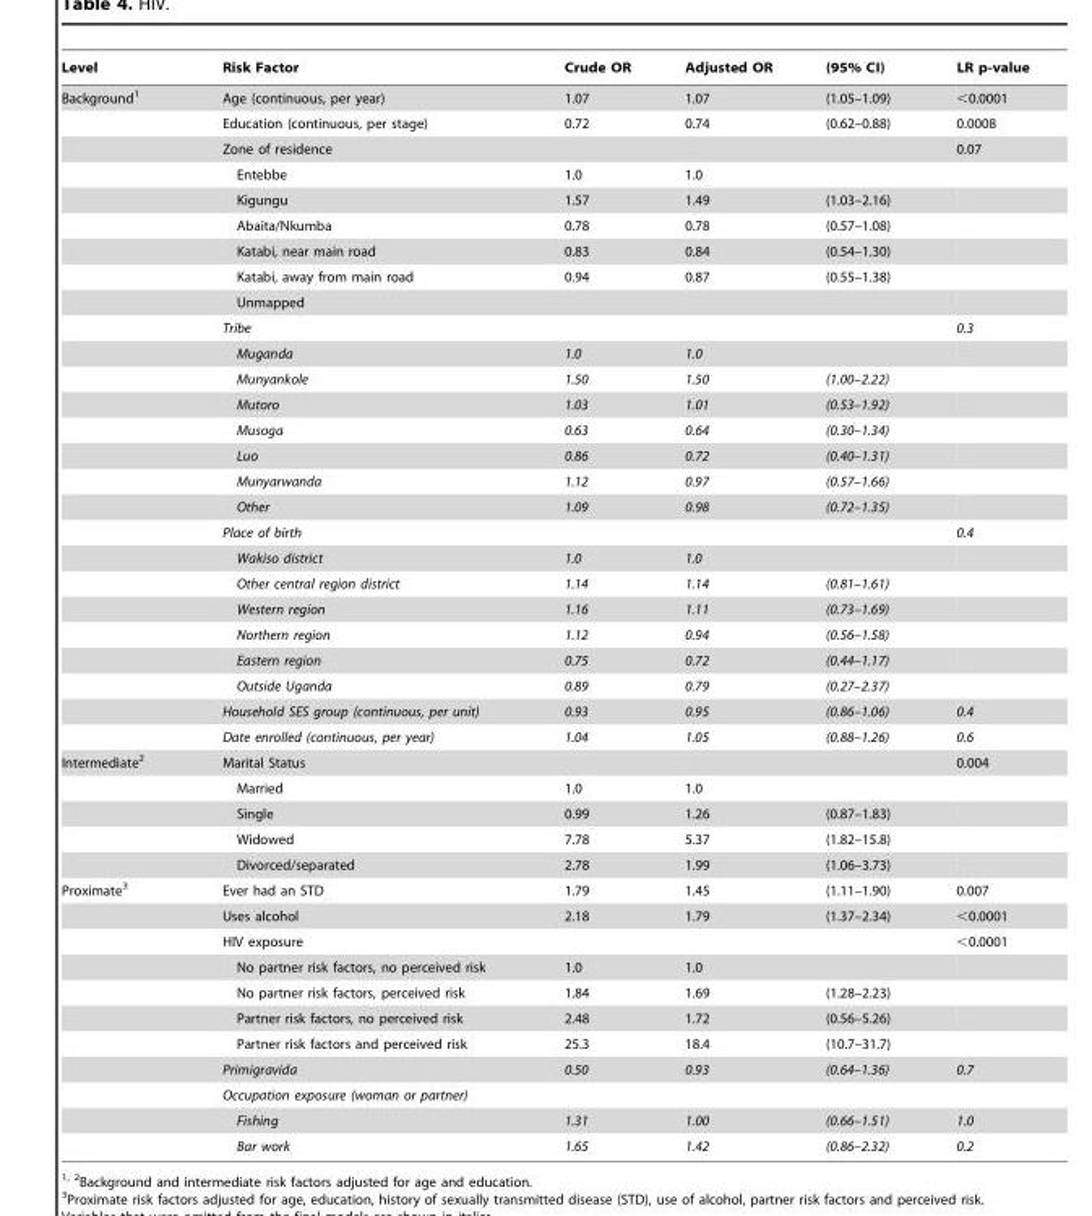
<table><thead><tr><td>Level</td><td>Risk Factor</td><td>Crude OR</td><td>Adjusted OR</td><td>(95% CI)</td><td>LR p-value</td></tr></thead><tbody><tr><td rowspan="26">Background<sup>1</sup></td><td>Age (continuous, per year)</td><td>1.07</td><td>1.07</td><td>(1.05–1.09)</td><td>&lt;0.0001</td></tr><tr><td>Education (continuous, per stage)</td><td>0.72</td><td>0.74</td><td>(0.62–0.88)</td><td>0.0008</td></tr><tr><td>Zone of residence</td><td></td><td></td><td></td><td>0.07</td></tr><tr><td>Entebbe</td><td>1.0</td><td>1.0</td><td></td><td></td></tr><tr><td>Kigungu</td><td>1.57</td><td>1.49</td><td>(1.03–2.16)</td><td></td></tr><tr><td>Abaita/Nkumba</td><td>0.78</td><td>0.78</td><td>(0.57–1.08)</td><td></td></tr><tr><td>Katabi, near main road</td><td>0.83</td><td>0.84</td><td>(0.54–1.30)</td><td></td></tr><tr><td>Katabi, away from main road</td><td>0.94</td><td>0.87</td><td>(0.55–1.38)</td><td></td></tr><tr><td>Unmapped</td><td></td><td></td><td></td><td></td></tr><tr><td>Tribe</td><td></td><td></td><td></td><td>0.3</td></tr><tr><td>Muganda</td><td>1.0</td><td>1.0</td><td></td><td></td></tr><tr><td>Munyankole</td><td>1.50</td><td>1.50</td><td>(1.00–2.22)</td><td></td></tr><tr><td>Mutoro</td><td>1.03</td><td>1.01</td><td>(0.53–1.92)</td><td></td></tr><tr><td>Musoga</td><td>0.63</td><td>0.64</td><td>(0.30–1.34)</td><td></td></tr><tr><td>Luo</td><td>0.86</td><td>0.72</td><td>(0.40–1.31)</td><td></td></tr><tr><td>Munyarwanda</td><td>1.12</td><td>0.97</td><td>(0.57–1.66)</td><td></td></tr><tr><td>Other</td><td>1.09</td><td>0.98</td><td>(0.72–1.35)</td><td></td></tr><tr><td>Place of birth</td><td></td><td></td><td></td><td>0.4</td></tr><tr><td>Wakiso district</td><td>1.0</td><td>1.0</td><td></td><td></td></tr><tr><td>Other central region district</td><td>1.14</td><td>1.14</td><td>(0.81–1.61)</td><td></td></tr><tr><td>Western region</td><td>1.16</td><td>1.11</td><td>(0.73–1.69)</td><td></td></tr><tr><td>Northern region</td><td>1.12</td><td>0.94</td><td>(0.56–1.58)</td><td></td></tr><tr><td>Eastern region</td><td>0.75</td><td>0.72</td><td>(0.44–1.17)</td><td></td></tr><tr><td>Outside Uganda</td><td>0.89</td><td>0.79</td><td>(0.27–2.37)</td><td></td></tr><tr><td>Household SES group (continuous, per unit)</td><td>0.93</td><td>0.95</td><td>(0.86–1.06)</td><td>0.4</td></tr><tr><td>Date enrolled (continuous, per year)</td><td>1.04</td><td>1.05</td><td>(0.88–1.26)</td><td>0.6</td></tr><tr><td rowspan="5">Intermediate<sup>2</sup></td><td>Marital Status</td><td></td><td></td><td></td><td>0.004</td></tr><tr><td>Married</td><td>1.0</td><td>1.0</td><td></td><td></td></tr><tr><td>Single</td><td>0.99</td><td>1.26</td><td>(0.87–1.83)</td><td></td></tr><tr><td>Widowed</td><td>7.78</td><td>5.37</td><td>(1.82–15.8)</td><td></td></tr><tr><td>Divorced/separated</td><td>2.78</td><td>1.99</td><td>(1.06–3.73)</td><td></td></tr><tr><td rowspan="11">Proximate<sup>3</sup></td><td>Ever had an STD</td><td>1.79</td><td>1.45</td><td>(1.11–1.90)</td><td>0.007</td></tr><tr><td>Uses alcohol</td><td>2.18</td><td>1.79</td><td>(1.37–2.34)</td><td>&lt;0.0001</td></tr><tr><td>HIV exposure</td><td></td><td></td><td></td><td>&lt;0.0001</td></tr><tr><td>No partner risk factors, no perceived risk</td><td>1.0</td><td>1.0</td><td></td><td></td></tr><tr><td>No partner risk factors, perceived risk</td><td>1.84</td><td>1.69</td><td>(1.28–2.23)</td><td></td></tr><tr><td>Partner risk factors, no perceived risk</td><td>2.48</td><td>1.72</td><td>(0.56–5.26)</td><td></td></tr><tr><td>Partner risk factors and perceived risk</td><td>25.3</td><td>18.4</td><td>(10.7–31.7)</td><td></td></tr><tr><td>Primigravida</td><td>0.50</td><td>0.93</td><td>(0.64–1.36)</td><td>0.7</td></tr><tr><td>Occupation exposure (woman or partner)</td><td></td><td></td><td></td><td></td></tr><tr><td>Fishing</td><td>1.31</td><td>1.00</td><td>(0.66–1.51)</td><td>1.0</td></tr><tr><td>Bar work</td><td>1.65</td><td>1.42</td><td>(0.86–2.32)</td><td>0.2</td></tr></tbody></table>